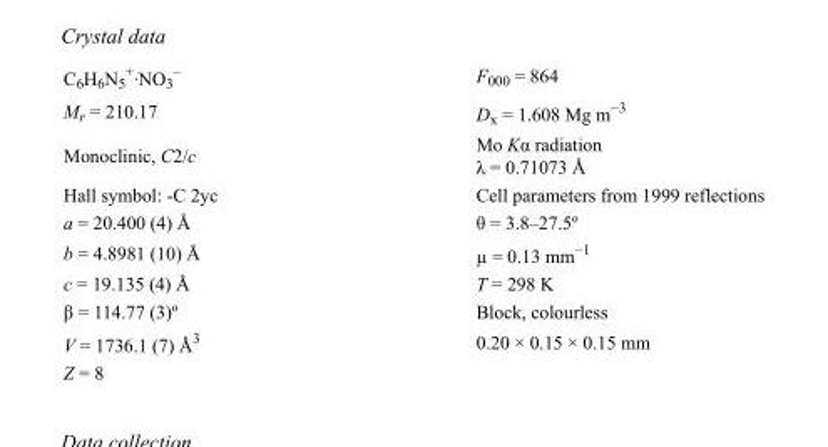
<table><tbody><tr><td>C<sub>6</sub>H<sub>6</sub>N<sub>5</sub> <sup>+</sup>·NO<sub>3</sub> <sup>–</sup></td><td>F000 = 864</td></tr><tr><td>M<sub>r</sub> = 210.17</td><td>D<sub>x</sub> = 1.608 Mg m<sup>−3</sup></td></tr><tr><td>Monoclinic, C2/c</td><td>Mo Kα radiation λ = 0.71073 Å</td></tr><tr><td>Hall symbol: -C 2yc</td><td>Cell parameters from 1999 reflections</td></tr><tr><td>a = 20.400 (4) Å</td><td>θ = 3.8–27.5º</td></tr><tr><td>b = 4.8981 (10) Å</td><td>µ = 0.13 mm<sup>−1</sup></td></tr><tr><td>c = 19.135 (4) Å</td><td>T = 298 K</td></tr><tr><td>β = 114.77 (3)º</td><td>Block, colourless</td></tr><tr><td>V = 1736.1 (7) Å<sup>3</sup></td><td>0.20 × 0.15 × 0.15 mm</td></tr><tr><td>Z = 8</td><td></td></tr></tbody></table>